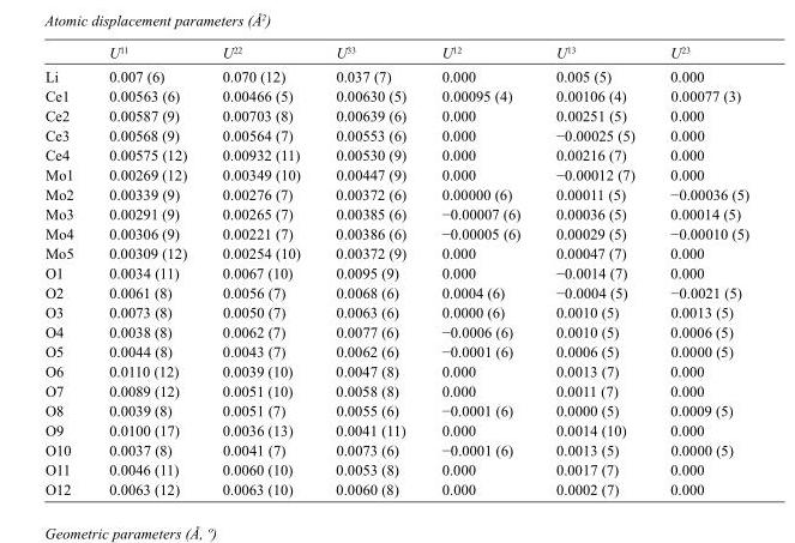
<table><thead><tr><td></td><td>U<sup>11</sup></td><td>U<sup>22</sup></td><td>U<sup>33</sup></td><td>U<sup>12</sup></td><td>U<sup>13</sup></td><td>U<sup>23</sup></td></tr></thead><tbody><tr><td>Li</td><td>0.007 (6)</td><td>0.070 (12)</td><td>0.037 (7)</td><td>0.000</td><td>0.005 (5)</td><td>0.000</td></tr><tr><td>Ce1</td><td>0.00563 (6)</td><td>0.00466 (5)</td><td>0.00630 (5)</td><td>0.00095 (4)</td><td>0.00106 (4)</td><td>0.00077 (3)</td></tr><tr><td>Ce2</td><td>0.00587 (9)</td><td>0.00703 (8)</td><td>0.00639 (6)</td><td>0.000</td><td>0.00251 (5)</td><td>0.000</td></tr><tr><td>Ce3</td><td>0.00568 (9)</td><td>0.00564 (7)</td><td>0.00553 (6)</td><td>0.000</td><td>−0.00025 (5)</td><td>0.000</td></tr><tr><td>Ce4</td><td>0.00575 (12)</td><td>0.00932 (11)</td><td>0.00530 (9)</td><td>0.000</td><td>0.00216 (7)</td><td>0.000</td></tr><tr><td>Mo1</td><td>0.00269 (12)</td><td>0.00349 (10)</td><td>0.00447 (9)</td><td>0.000</td><td>−0.00012 (7)</td><td>0.000</td></tr><tr><td>Mo2</td><td>0.00339 (9)</td><td>0.00276 (7)</td><td>0.00372 (6)</td><td>0.00000 (6)</td><td>0.00011 (5)</td><td>−0.00036 (5)</td></tr><tr><td>Mo3</td><td>0.00291 (9)</td><td>0.00265 (7)</td><td>0.00385 (6)</td><td>−0.00007 (6)</td><td>0.00036 (5)</td><td>0.00014 (5)</td></tr><tr><td>Mo4</td><td>0.00306 (9)</td><td>0.00221 (7)</td><td>0.00386 (6)</td><td>−0.00005 (6)</td><td>0.00029 (5)</td><td>−0.00010 (5)</td></tr><tr><td>Mo5</td><td>0.00309 (12)</td><td>0.00254 (10)</td><td>0.00372 (9)</td><td>0.000</td><td>0.00047 (7)</td><td>0.000</td></tr><tr><td>O1</td><td>0.0034 (11)</td><td>0.0067 (10)</td><td>0.0095 (9)</td><td>0.000</td><td>−0.0014 (7)</td><td>0.000</td></tr><tr><td>O2</td><td>0.0061 (8)</td><td>0.0056 (7)</td><td>0.0068 (6)</td><td>0.0004 (6)</td><td>−0.0004 (5)</td><td>−0.0021 (5)</td></tr><tr><td>O3</td><td>0.0073 (8)</td><td>0.0050 (7)</td><td>0.0063 (6)</td><td>0.0000 (6)</td><td>0.0010 (5)</td><td>0.0013 (5)</td></tr><tr><td>O4</td><td>0.0038 (8)</td><td>0.0062 (7)</td><td>0.0077 (6)</td><td>−0.0006 (6)</td><td>0.0010 (5)</td><td>0.0006 (5)</td></tr><tr><td>O5</td><td>0.0044 (8)</td><td>0.0043 (7)</td><td>0.0062 (6)</td><td>−0.0001 (6)</td><td>0.0006 (5)</td><td>0.0000 (5)</td></tr><tr><td>O6</td><td>0.0110 (12)</td><td>0.0039 (10)</td><td>0.0047 (8)</td><td>0.000</td><td>0.0013 (7)</td><td>0.000</td></tr><tr><td>O7</td><td>0.0089 (12)</td><td>0.0051 (10)</td><td>0.0058 (8)</td><td>0.000</td><td>0.0011 (7)</td><td>0.000</td></tr><tr><td>O8</td><td>0.0039 (8)</td><td>0.0051 (7)</td><td>0.0055 (6)</td><td>−0.0001 (6)</td><td>0.0000 (5)</td><td>0.0009 (5)</td></tr><tr><td>O9</td><td>0.0100 (17)</td><td>0.0036 (13)</td><td>0.0041 (11)</td><td>0.000</td><td>0.0014 (10)</td><td>0.000</td></tr><tr><td>O10</td><td>0.0037 (8)</td><td>0.0041 (7)</td><td>0.0073 (6)</td><td>−0.0001 (6)</td><td>0.0013 (5)</td><td>0.0000 (5)</td></tr><tr><td>O11</td><td>0.0046 (11)</td><td>0.0060 (10)</td><td>0.0053 (8)</td><td>0.000</td><td>0.0017 (7)</td><td>0.000</td></tr><tr><td>O12</td><td>0.0063 (12)</td><td>0.0063 (10)</td><td>0.0060 (8)</td><td>0.000</td><td>0.0002 (7)</td><td>0.000</td></tr></tbody></table>